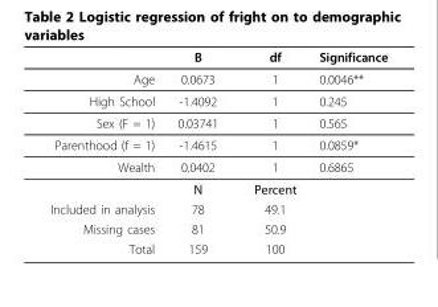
<table><thead><tr><td></td><td>B</td><td>df</td><td>Significance</td></tr></thead><tbody><tr><td>Age</td><td>0.0673</td><td>1</td><td>0.0046**</td></tr><tr><td>High School</td><td>-1.4092</td><td>1</td><td>0.245</td></tr><tr><td>Sex (F = 1)</td><td>0.03741</td><td>1</td><td>0.565</td></tr><tr><td>Parenthood (f = 1)</td><td>-1.4615</td><td>1</td><td>0.0859*</td></tr><tr><td rowspan="2">Wealth</td><td>0.0402</td><td>1</td><td>0.6865</td></tr><tr><td>N</td><td>Percent</td><td></td></tr><tr><td>Included in analysis</td><td>78</td><td>49.1</td><td></td></tr><tr><td>Missing cases</td><td>81</td><td>50.9</td><td></td></tr><tr><td>Total</td><td>159</td><td>100</td><td></td></tr></tbody></table>